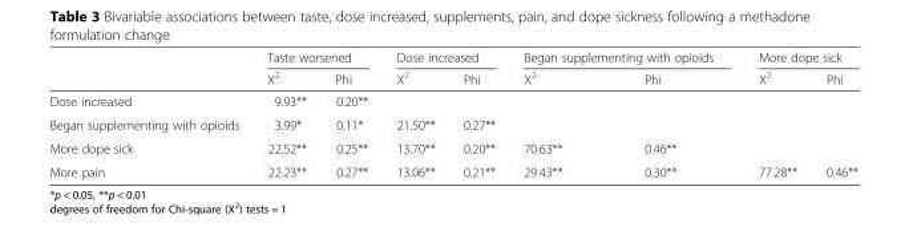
<table><thead><tr><td rowspan="2"></td><td colspan="2">Taste worsened</td><td colspan="2">Dose increased</td><td colspan="2">Began supplementing with opioids</td><td colspan="2">More dope sick</td></tr><tr><td>X<sup>2</sup></td><td>Phi</td><td>X<sup>2</sup></td><td>Phi</td><td>X<sup>2</sup></td><td>Phi</td><td>X<sup>2</sup></td><td>Phi</td></tr></thead><tbody><tr><td>Dose increased</td><td>9.93**</td><td>0.20**</td><td></td><td></td><td></td><td></td><td></td><td></td></tr><tr><td>Began supplementing with opioids</td><td>3.99*</td><td>0.11*</td><td>21.50**</td><td>0.27**</td><td></td><td></td><td></td><td></td></tr><tr><td>More dope sick</td><td>22.52**</td><td>0.25**</td><td>13.70**</td><td>0.20**</td><td>70.63**</td><td>0.46**</td><td></td><td></td></tr><tr><td>More pain</td><td>22.23**</td><td>0.27**</td><td>13.06**</td><td>0.21**</td><td>29.43**</td><td>0.30**</td><td>77.28**</td><td>0.46**</td></tr></tbody></table>